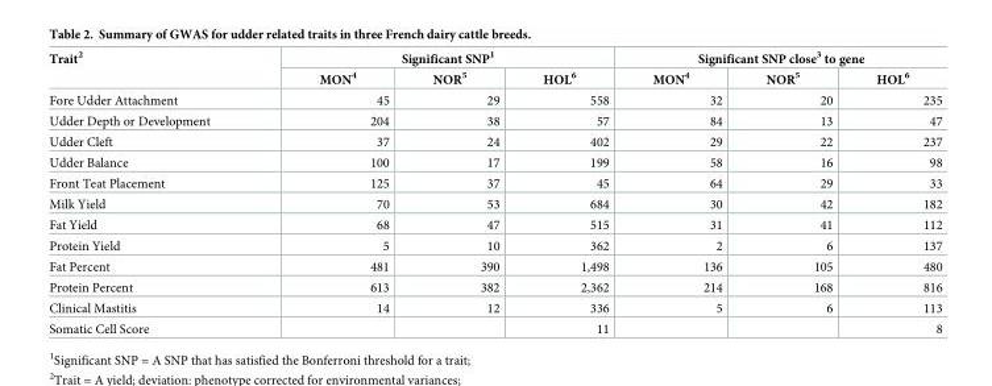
<table><thead><tr><td rowspan="2">Trait<sup>2</sup></td><td colspan="3">Significant SNP<sup>1</sup></td><td colspan="3">Significant SNP close<sup>3</sup> to gene</td></tr><tr><td>MON<sup>4</sup></td><td>NOR<sup>5</sup></td><td>HOL<sup>6</sup></td><td>MON<sup>4</sup></td><td>NOR<sup>5</sup></td><td>HOL<sup>6</sup></td></tr></thead><tbody><tr><td>Fore Udder Attachment</td><td>45</td><td>29</td><td>558</td><td>32</td><td>20</td><td>235</td></tr><tr><td>Udder Depth or Development</td><td>204</td><td>38</td><td>57</td><td>84</td><td>13</td><td>47</td></tr><tr><td>Udder Cleft</td><td>37</td><td>24</td><td>402</td><td>29</td><td>22</td><td>237</td></tr><tr><td>Udder Balance</td><td>100</td><td>17</td><td>199</td><td>58</td><td>16</td><td>98</td></tr><tr><td>Front Teat Placement</td><td>125</td><td>37</td><td>45</td><td>64</td><td>29</td><td>33</td></tr><tr><td>Milk Yield</td><td>70</td><td>53</td><td>684</td><td>30</td><td>42</td><td>182</td></tr><tr><td>Fat Yield</td><td>68</td><td>47</td><td>515</td><td>31</td><td>41</td><td>112</td></tr><tr><td>Protein Yield</td><td>5</td><td>10</td><td>362</td><td>2</td><td>6</td><td>137</td></tr><tr><td>Fat Percent</td><td>481</td><td>390</td><td>1,498</td><td>136</td><td>105</td><td>480</td></tr><tr><td>Protein Percent</td><td>613</td><td>382</td><td>2,362</td><td>214</td><td>168</td><td>816</td></tr><tr><td>Clinical Mastitis</td><td>14</td><td>12</td><td>336</td><td>5</td><td>6</td><td>113</td></tr><tr><td>Somatic Cell Score</td><td></td><td></td><td>11</td><td></td><td></td><td>8</td></tr></tbody></table>